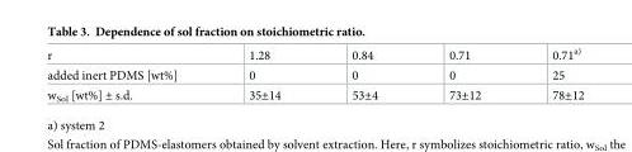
<table><thead><tr><td>r</td><td>1.28</td><td>0.84</td><td>0.71</td><td>0.71<sup>a)</sup></td></tr></thead><tbody><tr><td>added inert PDMS [wt%]</td><td>0</td><td>0</td><td>0</td><td>25</td></tr><tr><td>w<sub>Sol</sub> [wt%] ± s.d.</td><td>35±14</td><td>53±4</td><td>73±12</td><td>78±12</td></tr></tbody></table>